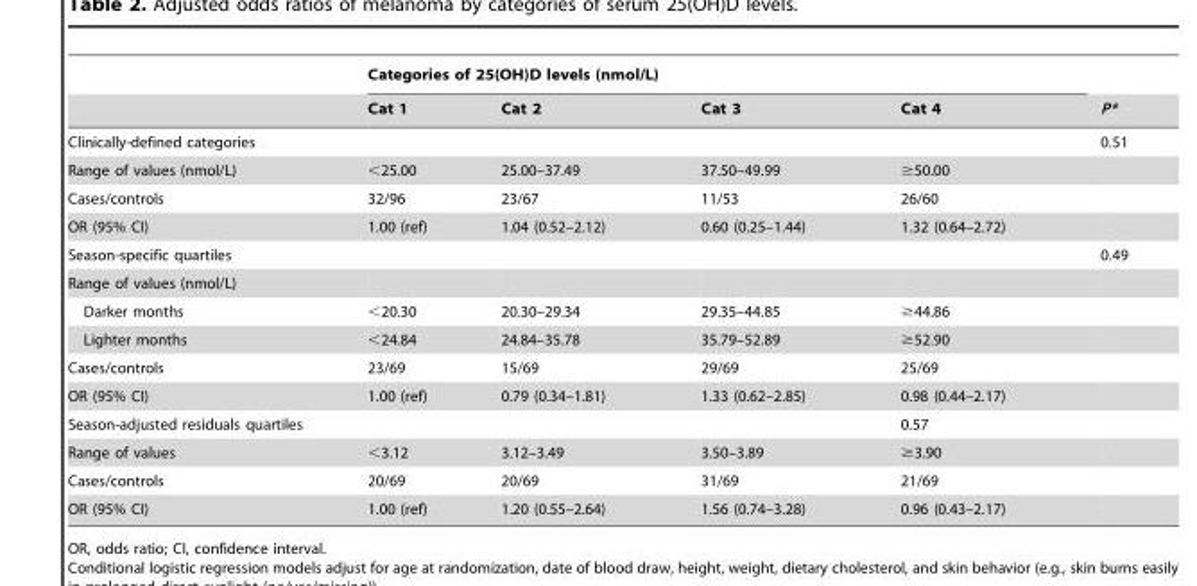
<table><thead><tr><td rowspan="2"></td><td colspan="4">Categories of 25(OH)D levels (nmol/L)</td><td rowspan="2">P*</td></tr><tr><td>Cat 1</td><td>Cat 2</td><td>Cat 3</td><td>Cat 4</td></tr></thead><tbody><tr><td>Clinically-defined categories</td><td></td><td></td><td></td><td></td><td>0.51</td></tr><tr><td>Range of values (nmol/L)</td><td>&lt;25.00</td><td>25.00–37.49</td><td>37.50–49.99</td><td>≥50.00</td><td></td></tr><tr><td>Cases/controls</td><td>32/96</td><td>23/67</td><td>11/53</td><td>26/60</td><td></td></tr><tr><td>OR (95% CI)</td><td>1.00 (ref)</td><td>1.04 (0.52–2.12)</td><td>0.60 (0.25–1.44)</td><td>1.32 (0.64–2.72)</td><td></td></tr><tr><td>Season-specific quartiles</td><td></td><td></td><td></td><td></td><td>0.49</td></tr><tr><td colspan="6">Range of values (nmol/L)</td></tr><tr><td>Darker months</td><td>&lt;20.30</td><td>20.30–29.34</td><td>29.35–44.85</td><td>≥44.86</td><td></td></tr><tr><td>Lighter months</td><td>&lt;24.84</td><td>24.84–35.78</td><td>35.79–52.89</td><td>≥52.90</td><td></td></tr><tr><td>Cases/controls</td><td>23/69</td><td>15/69</td><td>29/69</td><td>25/69</td><td></td></tr><tr><td>OR (95% CI)</td><td>1.00 (ref)</td><td>0.79 (0.34–1.81)</td><td>1.33 (0.62–2.85)</td><td>0.98 (0.44–2.17)</td><td></td></tr><tr><td>Season-adjusted residuals quartiles</td><td></td><td></td><td></td><td>0.57</td><td></td></tr><tr><td>Range of values</td><td>&lt;3.12</td><td>3.12–3.49</td><td>3.50–3.89</td><td>≥3.90</td><td></td></tr><tr><td>Cases/controls</td><td>20/69</td><td>20/69</td><td>31/69</td><td>21/69</td><td></td></tr><tr><td>OR (95% CI)</td><td>1.00 (ref)</td><td>1.20 (0.55–2.64)</td><td>1.56 (0.74–3.28)</td><td>0.96 (0.43–2.17)</td><td></td></tr></tbody></table>